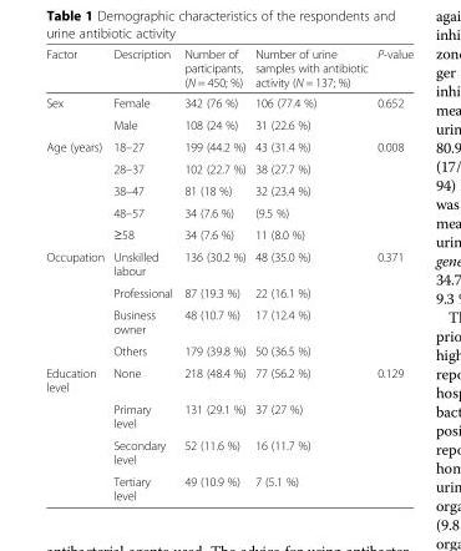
<table><thead><tr><td>Factor</td><td>Description</td><td>Number of participants, (N = 450; %)</td><td>Number of urine samples with antibiotic activity (N = 137; %)</td><td>P-value</td></tr></thead><tbody><tr><td rowspan="2">Sex</td><td>Female</td><td>342 (76 %)</td><td>106 (77.4 %)</td><td>0.652</td></tr><tr><td>Male</td><td>108 (24 %)</td><td>31 (22.6 %)</td><td></td></tr><tr><td rowspan="5">Age (years)</td><td>18–27</td><td>199 (44.2 %)</td><td>43 (31.4 %)</td><td>0.008</td></tr><tr><td>28–37</td><td>102 (22.7 %)</td><td>38 (27.7 %)</td><td></td></tr><tr><td>38–47</td><td>81 (18 %)</td><td>32 (23.4 %)</td><td></td></tr><tr><td>48–57</td><td>34 (7.6 %)</td><td>(9.5 %)</td><td></td></tr><tr><td>≥58</td><td>34 (7.6 %)</td><td>11 (8.0 %)</td><td></td></tr><tr><td rowspan="4">Occupation</td><td>Unskilled labour</td><td>136 (30.2 %)</td><td>48 (35.0 %)</td><td>0.371</td></tr><tr><td>Professional</td><td>87 (19.3 %)</td><td>22 (16.1 %)</td><td></td></tr><tr><td>Business owner</td><td>48 (10.7 %)</td><td>17 (12.4 %)</td><td></td></tr><tr><td>Others</td><td>179 (39.8 %)</td><td>50 (36.5 %)</td><td></td></tr><tr><td rowspan="4">Education level</td><td>None</td><td>218 (48.4 %)</td><td>77 (56.2 %)</td><td>0.129</td></tr><tr><td>Primary level</td><td>131 (29.1 %)</td><td>37 (27 %)</td><td></td></tr><tr><td>Secondary level</td><td>52 (11.6 %)</td><td>16 (11.7 %)</td><td></td></tr><tr><td>Tertiary level</td><td>49 (10.9 %)</td><td>7 (5.1 %)</td><td></td></tr></tbody></table>